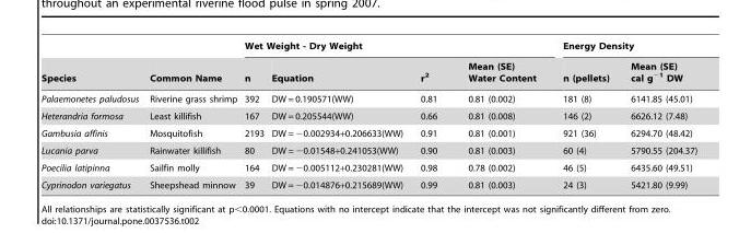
<table><thead><tr><td rowspan="2">Species</td><td rowspan="2">Common Name</td><td colspan="4">Wet Weight - Dry Weight</td><td colspan="2">Energy Density</td></tr><tr><td>n</td><td>Equation</td><td>r<sup>2</sup></td><td>Mean (SE) Water Content</td><td>n (pellets)</td><td>Mean (SE) cal g<sup>−1</sup> DW</td></tr></thead><tbody><tr><td>Palaemonetes paludosus</td><td>Riverine grass shrimp</td><td>392</td><td>DW = 0.190571(WW)</td><td>0.81</td><td>0.81 (0.002)</td><td>181 (8)</td><td>6141.85 (45.01)</td></tr><tr><td>Heterandria formosa</td><td>Least killifish</td><td>167</td><td>DW = 0.205544(WW)</td><td>0.66</td><td>0.81 (0.008)</td><td>146 (2)</td><td>6626.12 (7.48)</td></tr><tr><td>Gambusia affinis</td><td>Mosquitofish</td><td>2193</td><td>DW = −0.002934+0.206633(WW)</td><td>0.91</td><td>0.81 (0.001)</td><td>921 (36)</td><td>6294.70 (48.42)</td></tr><tr><td>Lucania parva</td><td>Rainwater killifish</td><td>80</td><td>DW = −0.01548+0.241053(WW)</td><td>0.90</td><td>0.81 (0.003)</td><td>60 (4)</td><td>5790.55 (204.37)</td></tr><tr><td>Poecilia latipinna</td><td>Sailfin molly</td><td>164</td><td>DW = −0.005112+0.230281(WW)</td><td>0.98</td><td>0.78 (0.002)</td><td>46 (5)</td><td>6435.60 (49.51)</td></tr><tr><td>Cyprinodon variegatus</td><td>Sheepshead minnow</td><td>39</td><td>DW = −0.014876+0.215689(WW)</td><td>0.99</td><td>0.81 (0.003)</td><td>24 (3)</td><td>5421.80 (9.99)</td></tr></tbody></table>